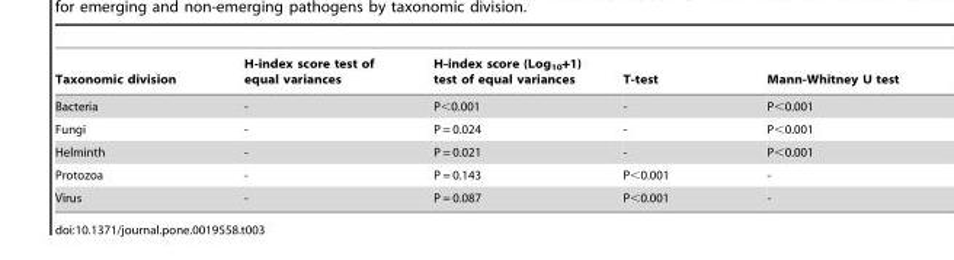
<table><thead><tr><td>Taxonomic division</td><td>H-index score test of equal variances</td><td>H-index score (Log<sub>10</sub>+1) test of equal variances</td><td>T-test</td><td>Mann-Whitney U test</td></tr></thead><tbody><tr><td>Bacteria</td><td>-</td><td>P&lt;0.001</td><td>-</td><td>P&lt;0.001</td></tr><tr><td>Fungi</td><td>-</td><td>P = 0.024</td><td>-</td><td>P&lt;0.001</td></tr><tr><td>Helminth</td><td>-</td><td>P = 0.021</td><td>-</td><td>P&lt;0.001</td></tr><tr><td>Protozoa</td><td>-</td><td>P = 0.143</td><td>P&lt;0.001</td><td>-</td></tr><tr><td>Virus</td><td>-</td><td>P = 0.087</td><td>P&lt;0.001</td><td>-</td></tr></tbody></table>